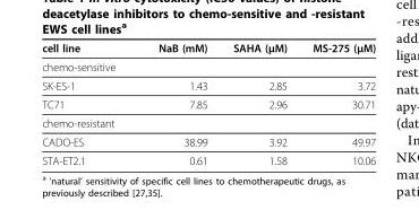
<table><thead><tr><td>cell line</td><td>NaB (mM)</td><td>SAHA (μM)</td><td>MS-275 (μM)</td></tr></thead><tbody><tr><td colspan="4">chemo-sensitive</td></tr><tr><td>SK-ES-1</td><td>1.43</td><td>2.85</td><td>3.72</td></tr><tr><td>TC71</td><td>7.85</td><td>2.96</td><td>30.71</td></tr><tr><td colspan="4">chemo-resistant</td></tr><tr><td>CADO-ES</td><td>38.99</td><td>3.92</td><td>49.97</td></tr><tr><td>STA-ET2.1</td><td>0.61</td><td>1.58</td><td>10.06</td></tr></tbody></table>